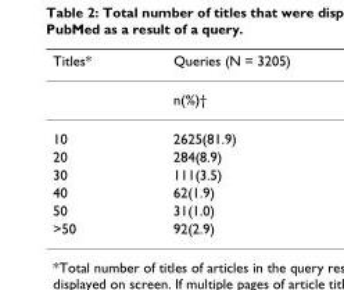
<table><thead><tr><td>Titles*</td><td>Queries (N = 3205)</td></tr></thead><tbody><tr><td></td><td>n(%)†</td></tr><tr><td>10</td><td>2625(81.9)</td></tr><tr><td>20</td><td>284(8.9)</td></tr><tr><td>30</td><td>111(3.5)</td></tr><tr><td>40</td><td>62(1.9)</td></tr><tr><td>50</td><td>31(1.0)</td></tr><tr><td>&gt;50</td><td>92(2.9)</td></tr></tbody></table>